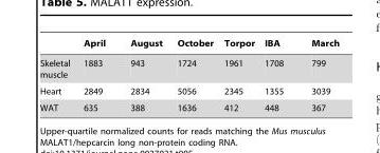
<table><thead><tr><td></td><td>April</td><td>August</td><td>October</td><td>Torpor</td><td>IBA</td><td>March</td></tr></thead><tbody><tr><td>Skeletal muscle</td><td>1883</td><td>943</td><td>1724</td><td>1961</td><td>1708</td><td>799</td></tr><tr><td>Heart</td><td>2849</td><td>2834</td><td>5056</td><td>2345</td><td>1355</td><td>3039</td></tr><tr><td>WAT</td><td>635</td><td>388</td><td>1636</td><td>412</td><td>448</td><td>367</td></tr></tbody></table>